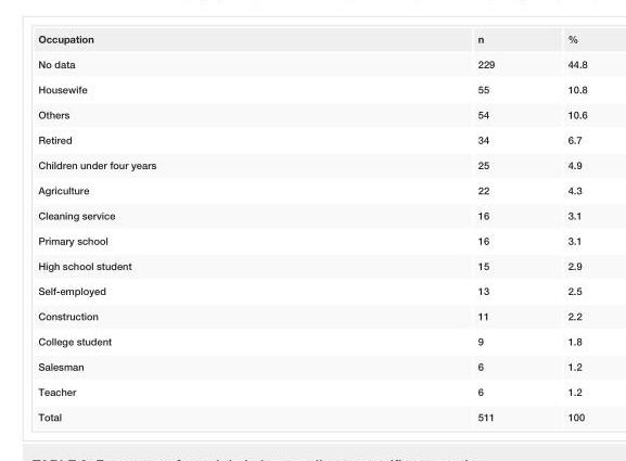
<table><tbody><tr><td>Occupation</td><td>n</td><td>%</td></tr><tr><td>No data</td><td>229</td><td>44.8</td></tr><tr><td>Housewife</td><td>55</td><td>10.8</td></tr><tr><td>Others</td><td>54</td><td>10.6</td></tr><tr><td>Retired</td><td>34</td><td>6.7</td></tr><tr><td>Children under four years</td><td>25</td><td>4.9</td></tr><tr><td>Agriculture</td><td>22</td><td>4.3</td></tr><tr><td>Cleaning service</td><td>16</td><td>3.1</td></tr><tr><td>Primary school</td><td>16</td><td>3.1</td></tr><tr><td>High school student</td><td>15</td><td>2.9</td></tr><tr><td>Self-employed</td><td>13</td><td>2.5</td></tr><tr><td>Construction</td><td>11</td><td>2.2</td></tr><tr><td>College student</td><td>9</td><td>1.8</td></tr><tr><td>Salesman</td><td>6</td><td>1.2</td></tr><tr><td>Teacher</td><td>6</td><td>1.2</td></tr><tr><td>Total</td><td>511</td><td>100</td></tr></tbody></table>